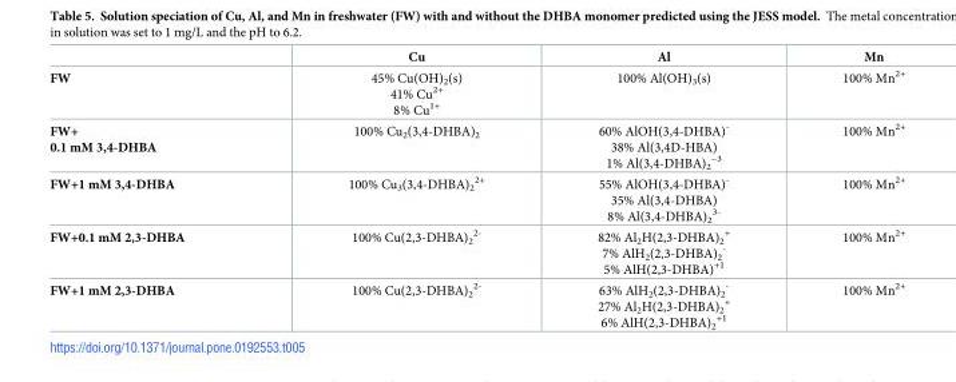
<table><thead><tr><td></td><td>Cu</td><td>Al</td><td>Mn</td></tr></thead><tbody><tr><td>FW</td><td>45% Cu(OH)<sub>2</sub>(s) 41% Cu<sup>2+</sup> 8% Cu<sup>1+</sup></td><td>100% Al(OH)<sub>3</sub>(s)</td><td>100% Mn<sup>2+</sup></td></tr><tr><td>FW+ 0.1 mM 3,4-DHBA</td><td>100% Cu<sub>2</sub>(3,4-DHBA)<sub>2</sub></td><td>60% AlOH(3,4-DHBA)<sup>-</sup> 38% Al(3,4D-HBA) 1% Al(3,4-DHBA)<sub>2</sub> <sup>−3</sup></td><td>100% Mn<sup>2+</sup></td></tr><tr><td>FW+1 mM 3,4-DHBA</td><td>100% Cu<sub>3</sub>(3,4-DHBA)<sub>2</sub> <sup>2+</sup></td><td>55% AlOH(3,4-DHBA)<sup>-</sup> 35% Al(3,4-DHBA) 8% Al(3,4-DHBA)<sub>2</sub> <sup>3-</sup></td><td>100% Mn<sup>2+</sup></td></tr><tr><td>FW+0.1 mM 2,3-DHBA</td><td>100% Cu(2,3-DHBA)<sub>2</sub> <sup>2-</sup></td><td>82% Al<sub>2</sub>H(2,3-DHBA)<sub>2</sub> <sup>+</sup> 7% AlH<sub>2</sub>(2,3-DHBA)<sub>2</sub> <sup>-</sup> 5% AlH(2,3-DHBA)<sup>+1</sup></td><td>100% Mn<sup>2+</sup></td></tr><tr><td>FW+1 mM 2,3-DHBA</td><td>100% Cu(2,3-DHBA)<sub>2</sub> <sup>2-</sup></td><td>63% AlH<sub>2</sub>(2,3-DHBA)<sub>2</sub> <sup>-</sup> 27% Al<sub>2</sub>H(2,3-DHBA)<sub>2</sub> <sup>+</sup> 6% AlH(2,3-DHBA)<sub>2</sub> <sup>+1</sup></td><td>100% Mn<sup>2+</sup></td></tr></tbody></table>